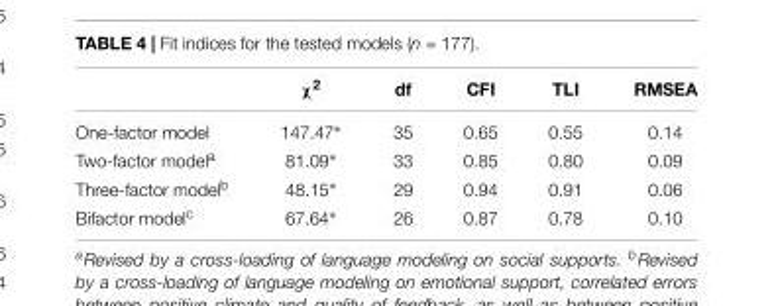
<table><thead><tr><td></td><td>χ<sup>2</sup></td><td>df</td><td>CFI</td><td>TLI</td><td>RMSEA</td></tr></thead><tbody><tr><td>One-factor model</td><td>147.47∗</td><td>35</td><td>0.65</td><td>0.55</td><td>0.14</td></tr><tr><td>Two-factor model<sup>a</sup></td><td>81.09∗</td><td>33</td><td>0.85</td><td>0.80</td><td>0.09</td></tr><tr><td>Three-factor model<sup>b</sup></td><td>48.15∗</td><td>29</td><td>0.94</td><td>0.91</td><td>0.06</td></tr><tr><td>Bifactor model<sup>c</sup></td><td>67.64∗</td><td>26</td><td>0.87</td><td>0.78</td><td>0.10</td></tr></tbody></table>